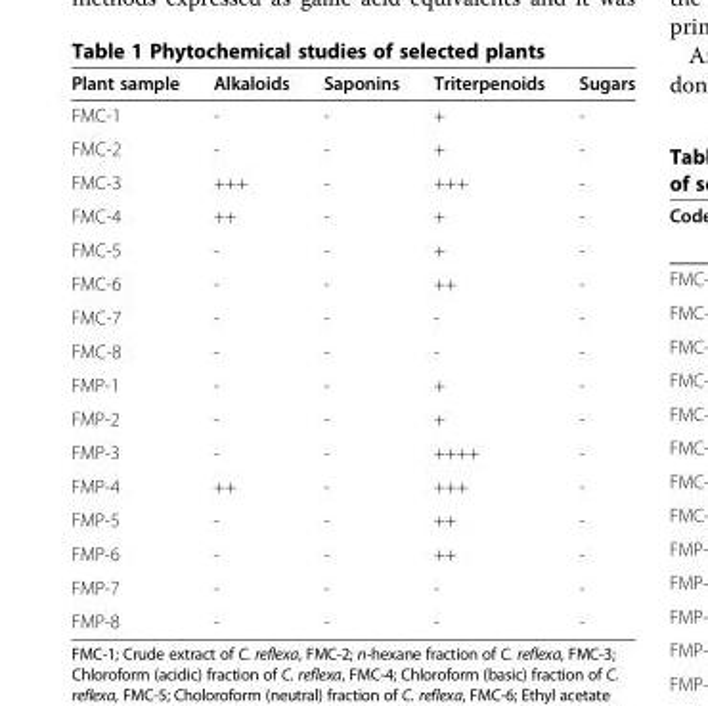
<table><thead><tr><td>Plant sample</td><td>Alkaloids</td><td>Saponins</td><td>Triterpenoids</td><td>Sugars</td></tr></thead><tbody><tr><td>FMC-1</td><td>-</td><td>-</td><td>+</td><td>-</td></tr><tr><td>FMC-2</td><td>-</td><td>-</td><td>+</td><td>-</td></tr><tr><td>FMC-3</td><td>+++</td><td>-</td><td>+++</td><td>-</td></tr><tr><td>FMC-4</td><td>++</td><td>-</td><td>+</td><td>-</td></tr><tr><td>FMC-5</td><td>-</td><td>-</td><td>+</td><td>-</td></tr><tr><td>FMC-6</td><td>-</td><td>-</td><td>++</td><td>-</td></tr><tr><td>FMC-7</td><td>-</td><td>-</td><td>-</td><td>-</td></tr><tr><td>FMC-8</td><td>-</td><td>-</td><td>-</td><td>-</td></tr><tr><td>FMP-1</td><td>-</td><td>-</td><td>+</td><td>-</td></tr><tr><td>FMP-2</td><td>-</td><td>-</td><td>+</td><td>-</td></tr><tr><td>FMP-3</td><td>-</td><td>-</td><td>++++</td><td>-</td></tr><tr><td>FMP-4</td><td>++</td><td>-</td><td>+++</td><td>-</td></tr><tr><td>FMP-5</td><td>-</td><td>-</td><td>++</td><td>-</td></tr><tr><td>FMP-6</td><td>-</td><td>-</td><td>++</td><td>-</td></tr><tr><td>FMP-7</td><td>-</td><td>-</td><td>-</td><td>-</td></tr><tr><td>FMP-8</td><td>-</td><td>-</td><td>-</td><td>-</td></tr></tbody></table>